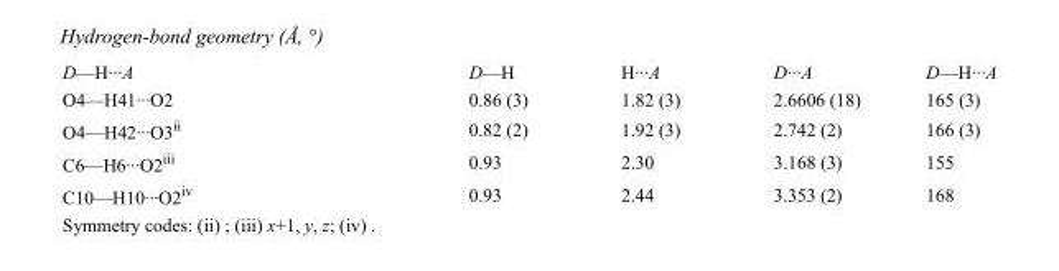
<table><tbody><tr><td>D—H···A</td><td>D—H</td><td>H···A</td><td>D···A</td><td>D—H···A</td></tr><tr><td>O4—H41···O2</td><td>0.86 (3)</td><td>1.82 (3)</td><td>2.6606 (18)</td><td>165 (3)</td></tr><tr><td>O4—H42···O3<sup>ii</sup></td><td>0.82 (2)</td><td>1.92 (3)</td><td>2.742 (2)</td><td>166 (3)</td></tr><tr><td>C6—H6···O2<sup>iii</sup></td><td>0.93</td><td>2.30</td><td>3.168 (3)</td><td>155</td></tr><tr><td>C10—H10···O2<sup>iv</sup></td><td>0.93</td><td>2.44</td><td>3.353 (2)</td><td>168</td></tr></tbody></table>